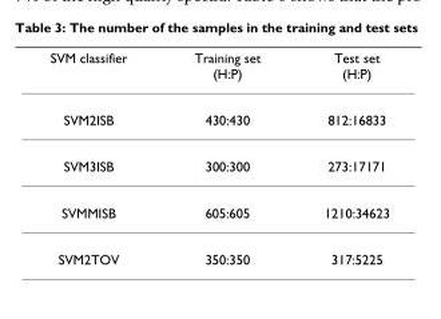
<table><thead><tr><td>SVM classifier</td><td>Training set (H:P)</td><td>Test set (H:P)</td></tr></thead><tbody><tr><td>SVM2ISB</td><td>430:430</td><td>812:16833</td></tr><tr><td>SVM3ISB</td><td>300:300</td><td>273:17171</td></tr><tr><td>SVMMISB</td><td>605:605</td><td>1210:34623</td></tr><tr><td>SVM2TOV</td><td>350:350</td><td>317:5225</td></tr></tbody></table>